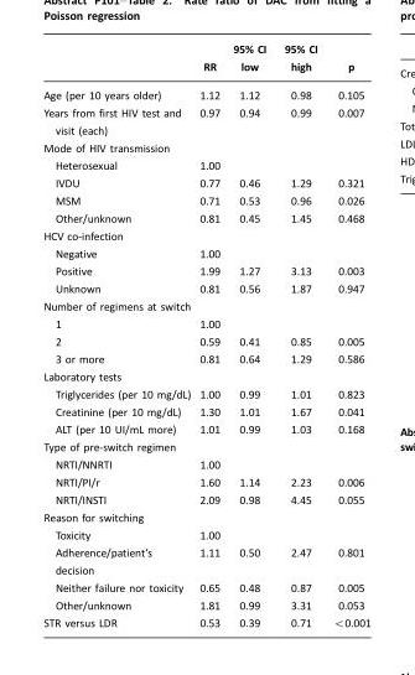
<table><thead><tr><td></td><td>RR</td><td>95% CI low</td><td>95% CI high</td><td>p</td></tr></thead><tbody><tr><td>Age (per 10 years older)</td><td>1.12</td><td>1.12</td><td>0.98</td><td>0.105</td></tr><tr><td>Years from first HIV test and visit (each)</td><td>0.97</td><td>0.94</td><td>0.99</td><td>0.007</td></tr><tr><td colspan="5">Mode of HIV transmission</td></tr><tr><td>Heterosexual</td><td>1.00</td><td></td><td></td><td></td></tr><tr><td>IVDU</td><td>0.77</td><td>0.46</td><td>1.29</td><td>0.321</td></tr><tr><td>MSM</td><td>0.71</td><td>0.53</td><td>0.96</td><td>0.026</td></tr><tr><td>Other/unknown</td><td>0.81</td><td>0.45</td><td>1.45</td><td>0.468</td></tr><tr><td colspan="5">HCV co-infection</td></tr><tr><td>Negative</td><td>1.00</td><td></td><td></td><td></td></tr><tr><td>Positive</td><td>1.99</td><td>1.27</td><td>3.13</td><td>0.003</td></tr><tr><td>Unknown</td><td>0.81</td><td>0.56</td><td>1.87</td><td>0.947</td></tr><tr><td colspan="5">Number of regimens at switch</td></tr><tr><td>1</td><td>1.00</td><td></td><td></td><td></td></tr><tr><td>2</td><td>0.59</td><td>0.41</td><td>0.85</td><td>0.005</td></tr><tr><td>3 or more</td><td>0.81</td><td>0.64</td><td>1.29</td><td>0.586</td></tr><tr><td colspan="5">Laboratory tests</td></tr><tr><td>Triglycerides (per 10 mg/dL)</td><td>1.00</td><td>0.99</td><td>1.01</td><td>0.823</td></tr><tr><td>Creatinine (per 10 mg/dL)</td><td>1.30</td><td>1.01</td><td>1.67</td><td>0.041</td></tr><tr><td>ALT (per 10 UI/mL more)</td><td>1.01</td><td>0.99</td><td>1.03</td><td>0.168</td></tr><tr><td colspan="5">Type of pre-switch regimen</td></tr><tr><td>NRTI/NNRTI</td><td>1.00</td><td></td><td></td><td></td></tr><tr><td>NRTI/PI/r</td><td>1.60</td><td>1.14</td><td>2.23</td><td>0.006</td></tr><tr><td>NRTI/INSTI</td><td>2.09</td><td>0.98</td><td>4.45</td><td>0.055</td></tr><tr><td colspan="5">Reason for switching</td></tr><tr><td>Toxicity</td><td>1.00</td><td></td><td></td><td></td></tr><tr><td>Adherence/patient’s decision</td><td>1.11</td><td>0.50</td><td>2.47</td><td>0.801</td></tr><tr><td>Neither failure nor toxicity</td><td>0.65</td><td>0.48</td><td>0.87</td><td>0.005</td></tr><tr><td>Other/unknown</td><td>1.81</td><td>0.99</td><td>3.31</td><td>0.053</td></tr><tr><td>STR versus LDR</td><td>0.53</td><td>0.39</td><td>0.71</td><td>&lt;0.001</td></tr></tbody></table>